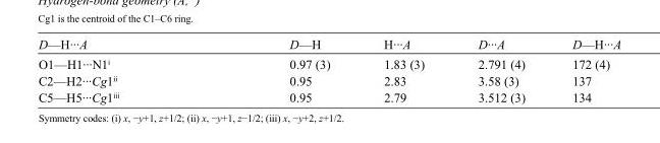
<table><tbody><tr><td>D—H···A</td><td>D—H</td><td>H···A</td><td>D···A</td><td>D—H···A</td></tr><tr><td>O1—H1···N1<sup>i</sup></td><td>0.97 (3)</td><td>1.83 (3)</td><td>2.791 (4)</td><td>172 (4)</td></tr><tr><td>C2—H2···Cg1<sup>ii</sup></td><td>0.95</td><td>2.83</td><td>3.58 (3)</td><td>137</td></tr><tr><td>C5—H5···Cg1<sup>iii</sup></td><td>0.95</td><td>2.79</td><td>3.512 (3)</td><td>134</td></tr></tbody></table>